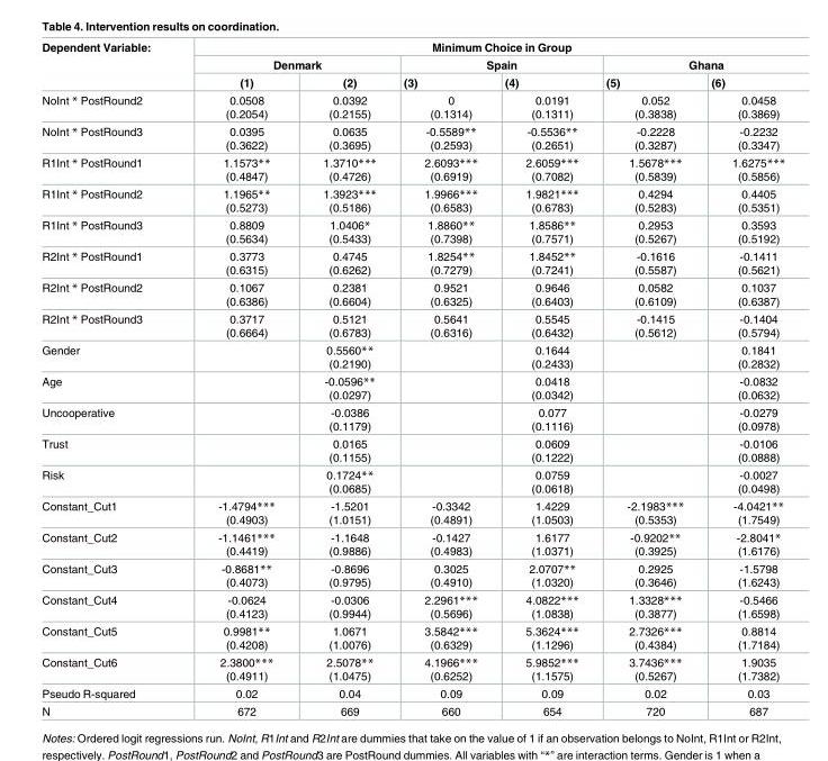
<table><thead><tr><td rowspan="3">Dependent Variable:</td><td colspan="6">Minimum Choice in Group</td></tr><tr><td colspan="2">Denmark</td><td colspan="2">Spain</td><td colspan="2">Ghana</td></tr><tr><td>(1)</td><td>(2)</td><td>(3)</td><td>(4)</td><td>(5)</td><td>(6)</td></tr></thead><tbody><tr><td>NoInt * PostRound2</td><td>0.0508 (0.2054)</td><td>0.0392 (0.2155)</td><td>0 (0.1314)</td><td>0.0191 (0.1311)</td><td>0.052 (0.3838)</td><td>0.0458 (0.3869)</td></tr><tr><td>NoInt * PostRound3</td><td>0.0395 (0.3622)</td><td>0.0635 (0.3695)</td><td>-0.5589** (0.2593)</td><td>-0.5536** (0.2651)</td><td>-0.2228 (0.3287)</td><td>-0.2232 (0.3347)</td></tr><tr><td>R1Int * PostRound1</td><td>1.1573** (0.4847)</td><td>1.3710*** (0.4726)</td><td>2.6093*** (0.6919)</td><td>2.6059*** (0.7082)</td><td>1.5678*** (0.5839)</td><td>1.6275*** (0.5856)</td></tr><tr><td>R1Int * PostRound2</td><td>1.1965** (0.5273)</td><td>1.3923*** (0.5186)</td><td>1.9966*** (0.6583)</td><td>1.9821*** (0.6783)</td><td>0.4294 (0.5283)</td><td>0.4405 (0.5351)</td></tr><tr><td>R1Int * PostRound3</td><td>0.8809 (0.5634)</td><td>1.0406* (0.5433)</td><td>1.8860** (0.7398)</td><td>1.8586** (0.7571)</td><td>0.2953 (0.5267)</td><td>0.3593 (0.5192)</td></tr><tr><td>R2Int * PostRound1</td><td>0.3773 (0.6315)</td><td>0.4745 (0.6262)</td><td>1.8254** (0.7279)</td><td>1.8452** (0.7241)</td><td>-0.1616 (0.5587)</td><td>-0.1411 (0.5621)</td></tr><tr><td>R2Int * PostRound2</td><td>0.1067 (0.6386)</td><td>0.2381 (0.6604)</td><td>0.9521 (0.6325)</td><td>0.9646 (0.6403)</td><td>0.0582 (0.6109)</td><td>0.1037 (0.6387)</td></tr><tr><td>R2Int * PostRound3</td><td>0.3717 (0.6664)</td><td>0.5121 (0.6783)</td><td>0.5641 (0.6316)</td><td>0.5545 (0.6432)</td><td>-0.1415 (0.5612)</td><td>-0.1404 (0.5794)</td></tr><tr><td>Gender</td><td></td><td>0.5560** (0.2190)</td><td></td><td>0.1644 (0.2433)</td><td></td><td>0.1841 (0.2832)</td></tr><tr><td>Age</td><td></td><td>-0.0596** (0.0297)</td><td></td><td>0.0418 (0.0342)</td><td></td><td>-0.0832 (0.0632)</td></tr><tr><td>Uncooperative</td><td></td><td>-0.0386 (0.1179)</td><td></td><td>0.077 (0.1116)</td><td></td><td>-0.0279 (0.0978)</td></tr><tr><td>Trust</td><td></td><td>0.0165 (0.1155)</td><td></td><td>0.0609 (0.1222)</td><td></td><td>-0.0106 (0.0888)</td></tr><tr><td>Risk</td><td></td><td>0.1724** (0.0685)</td><td></td><td>0.0759 (0.0618)</td><td></td><td>-0.0027 (0.0498)</td></tr><tr><td>Constant_Cut1</td><td>-1.4794*** (0.4903)</td><td>-1.5201 (1.0151)</td><td>-0.3342 (0.4891)</td><td>1.4229 (1.0503)</td><td>-2.1983*** (0.5353)</td><td>-4.0421** (1.7549)</td></tr><tr><td>Constant_Cut2</td><td>-1.1461*** (0.4419)</td><td>-1.1648 (0.9886)</td><td>-0.1427 (0.4983)</td><td>1.6177 (1.0371)</td><td>-0.9202** (0.3925)</td><td>-2.8041* (1.6176)</td></tr><tr><td>Constant_Cut3</td><td>-0.8681** (0.4073)</td><td>-0.8696 (0.9795)</td><td>0.3025 (0.4910)</td><td>2.0707** (1.0320)</td><td>0.2925 (0.3646)</td><td>-1.5798 (1.6243)</td></tr><tr><td>Constant_Cut4</td><td>-0.0624 (0.4123)</td><td>-0.0306 (0.9944)</td><td>2.2961*** (0.5696)</td><td>4.0822*** (1.0838)</td><td>1.3328*** (0.3877)</td><td>-0.5466 (1.6598)</td></tr><tr><td>Constant_Cut5</td><td>0.9981** (0.4208)</td><td>1.0671 (1.0076)</td><td>3.5842*** (0.6329)</td><td>5.3624*** (1.1296)</td><td>2.7326*** (0.4384)</td><td>0.8814 (1.7184)</td></tr><tr><td>Constant_Cut6</td><td>2.3800*** (0.4911)</td><td>2.5078** (1.0475)</td><td>4.1966*** (0.6252)</td><td>5.9852*** (1.1575)</td><td>3.7436*** (0.5267)</td><td>1.9035 (1.7382)</td></tr><tr><td>Pseudo R-squared</td><td>0.02</td><td>0.04</td><td>0.09</td><td>0.09</td><td>0.02</td><td>0.03</td></tr><tr><td>N</td><td>672</td><td>669</td><td>660</td><td>654</td><td>720</td><td>687</td></tr></tbody></table>